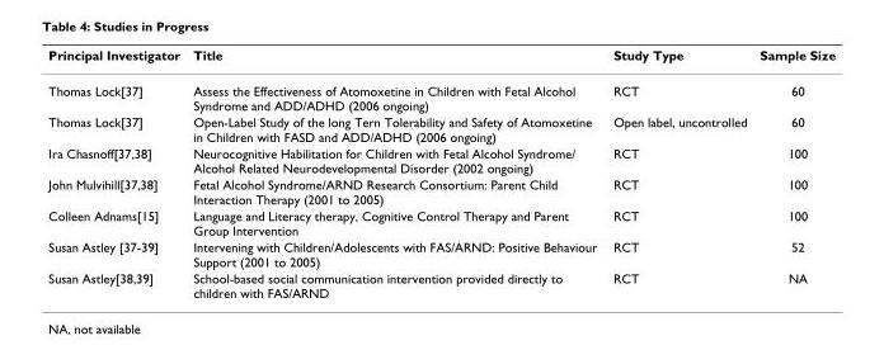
<table><thead><tr><td>Principal Investigator</td><td>Title</td><td>Study Type</td><td>Sample Size</td></tr></thead><tbody><tr><td>Thomas Lock[37]</td><td>Assess the Effectiveness of Atomoxetine in Children with Fetal Alcohol Syndrome and ADD/ADHD (2006 ongoing)</td><td>RCT</td><td>60</td></tr><tr><td>Thomas Lock[37]</td><td>Open-Label Study of the long Tern Tolerability and Safety of Atomoxetine in Children with FASD and ADD/ADHD (2006 ongoing)</td><td>Open label, uncontrolled</td><td>60</td></tr><tr><td>Ira Chasnoff[37,38]</td><td>Neurocognitive Habilitation for Children with Fetal Alcohol Syndrome/ Alcohol Related Neurodevelopmental Disorder (2002 ongoing)</td><td>RCT</td><td>100</td></tr><tr><td>John Mulvihill[37,38]</td><td>Fetal Alcohol Syndrome/ARND Research Consortium: Parent Child Interaction Therapy (2001 to 2005)</td><td>RCT</td><td>100</td></tr><tr><td>Colleen Adnams[15]</td><td>Language and Literacy therapy, Cognitive Control Therapy and Parent Group Intervention</td><td>RCT</td><td>100</td></tr><tr><td>Susan Astley [37-39]</td><td>Intervening with Children/Adolescents with FAS/ARND: Positive Behaviour Support (2001 to 2005)</td><td>RCT</td><td>52</td></tr><tr><td>Susan Astley[38,39]</td><td>School-based social communication intervention provided directly to children with FAS/ARND</td><td>RCT</td><td>NA</td></tr></tbody></table>